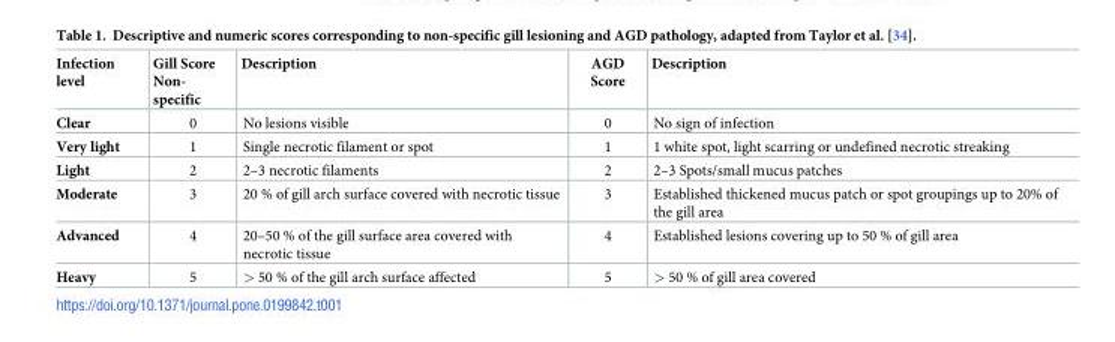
<table><thead><tr><td>Infection level</td><td>Gill Score Non- specific</td><td>Description</td><td>AGD Score</td><td>Description</td></tr></thead><tbody><tr><td>Clear</td><td>0</td><td>No lesions visible</td><td>0</td><td>No sign of infection</td></tr><tr><td>Very light</td><td>1</td><td>Single necrotic filament or spot</td><td>1</td><td>1 white spot, light scarring or undefined necrotic streaking</td></tr><tr><td>Light</td><td>2</td><td>2–3 necrotic filaments</td><td>2</td><td>2–3 Spots/small mucus patches</td></tr><tr><td>Moderate</td><td>3</td><td>20 % of gill arch surface covered with necrotic tissue</td><td>3</td><td>Established thickened mucus patch or spot groupings up to 20% of the gill area</td></tr><tr><td>Advanced</td><td>4</td><td>20–50 % of the gill surface area covered with necrotic tissue</td><td>4</td><td>Established lesions covering up to 50 % of gill area</td></tr><tr><td>Heavy</td><td>5</td><td>&gt; 50 % of the gill arch surface affected</td><td>5</td><td>&gt; 50 % of gill area covered</td></tr></tbody></table>